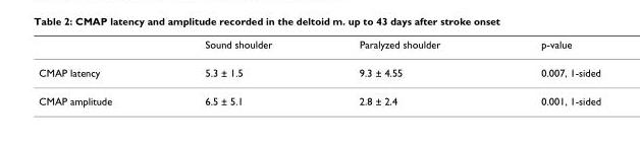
<table><thead><tr><td></td><td>Sound shoulder</td><td>Paralyzed shoulder</td><td>p-value</td></tr></thead><tbody><tr><td>CMAP latency</td><td>5.3 ± 1.5</td><td>9.3 ± 4.55</td><td>0.007, 1-sided</td></tr><tr><td>CMAP amplitude</td><td>6.5 ± 5.1</td><td>2.8 ± 2.4</td><td>0.001, 1-sided</td></tr></tbody></table>